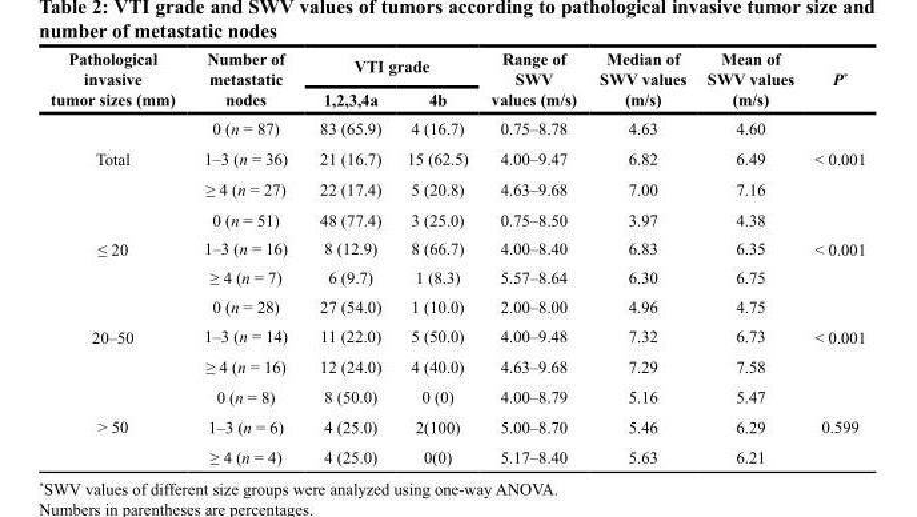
<table><thead><tr><td rowspan="2">Pathological invasive tumor sizes (mm)</td><td rowspan="2">Number of metastatic nodes</td><td colspan="2">VTI grade</td><td rowspan="2">Range of SWV values (m/s)</td><td rowspan="2">Median of SWV values (m/s)</td><td rowspan="2">Mean of SWV values (m/s)</td><td rowspan="2">P*</td></tr><tr><td>1,2,3,4a</td><td>4b</td></tr></thead><tbody><tr><td rowspan="3">Total</td><td>0 (n = 87)</td><td>83 (65.9)</td><td>4 (16.7)</td><td>0.75–8.78</td><td>4.63</td><td>4.60</td><td rowspan="3">&lt; 0.001</td></tr><tr><td>1–3 (n = 36)</td><td>21 (16.7)</td><td>15 (62.5)</td><td>4.00–9.47</td><td>6.82</td><td>6.49</td></tr><tr><td>≥ 4 (n = 27)</td><td>22 (17.4)</td><td>5 (20.8)</td><td>4.63–9.68</td><td>7.00</td><td>7.16</td></tr><tr><td rowspan="3">≤ 20</td><td>0 (n = 51)</td><td>48 (77.4)</td><td>3 (25.0)</td><td>0.75–8.50</td><td>3.97</td><td>4.38</td><td rowspan="3">&lt; 0.001</td></tr><tr><td>1–3 (n = 16)</td><td>8 (12.9)</td><td>8 (66.7)</td><td>4.00–8.40</td><td>6.83</td><td>6.35</td></tr><tr><td>≥ 4 (n = 7)</td><td>6 (9.7)</td><td>1 (8.3)</td><td>5.57–8.64</td><td>6.30</td><td>6.75</td></tr><tr><td rowspan="3">20–50</td><td>0 (n = 28)</td><td>27 (54.0)</td><td>1 (10.0)</td><td>2.00–8.00</td><td>4.96</td><td>4.75</td><td rowspan="3">&lt; 0.001</td></tr><tr><td>1–3 (n = 14)</td><td>11 (22.0)</td><td>5 (50.0)</td><td>4.00–9.48</td><td>7.32</td><td>6.73</td></tr><tr><td>≥ 4 (n = 16)</td><td>12 (24.0)</td><td>4 (40.0)</td><td>4.63–9.68</td><td>7.29</td><td>7.58</td></tr><tr><td rowspan="3">&gt; 50</td><td>0 (n = 8)</td><td>8 (50.0)</td><td>0 (0)</td><td>4.00–8.79</td><td>5.16</td><td>5.47</td><td rowspan="3">0.599</td></tr><tr><td>1–3 (n = 6)</td><td>4 (25.0)</td><td>2(100)</td><td>5.00–8.70</td><td>5.46</td><td>6.29</td></tr><tr><td>≥ 4 (n = 4)</td><td>4 (25.0)</td><td>0(0)</td><td>5.17–8.40</td><td>5.63</td><td>6.21</td></tr></tbody></table>